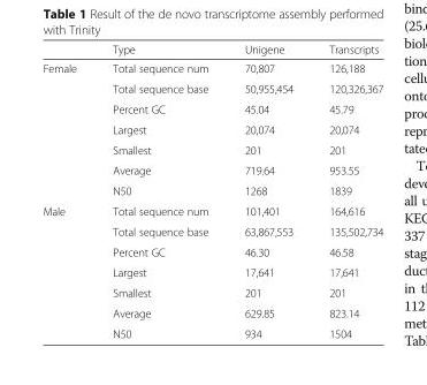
<table><thead><tr><td></td><td>Type</td><td>Unigene</td><td>Transcripts</td></tr></thead><tbody><tr><td rowspan="7">Female</td><td>Total sequence num</td><td>70,807</td><td>126,188</td></tr><tr><td>Total sequence base</td><td>50,955,454</td><td>120,326,367</td></tr><tr><td>Percent GC</td><td>45.04</td><td>45.79</td></tr><tr><td>Largest</td><td>20,074</td><td>20,074</td></tr><tr><td>Smallest</td><td>201</td><td>201</td></tr><tr><td>Average</td><td>719.64</td><td>953.55</td></tr><tr><td>N50</td><td>1268</td><td>1839</td></tr><tr><td rowspan="7">Male</td><td>Total sequence num</td><td>101,401</td><td>164,616</td></tr><tr><td>Total sequence base</td><td>63,867,553</td><td>135,502,734</td></tr><tr><td>Percent GC</td><td>46.30</td><td>46.58</td></tr><tr><td>Largest</td><td>17,641</td><td>17,641</td></tr><tr><td>Smallest</td><td>201</td><td>201</td></tr><tr><td>Average</td><td>629.85</td><td>823.14</td></tr><tr><td>N50</td><td>934</td><td>1504</td></tr></tbody></table>